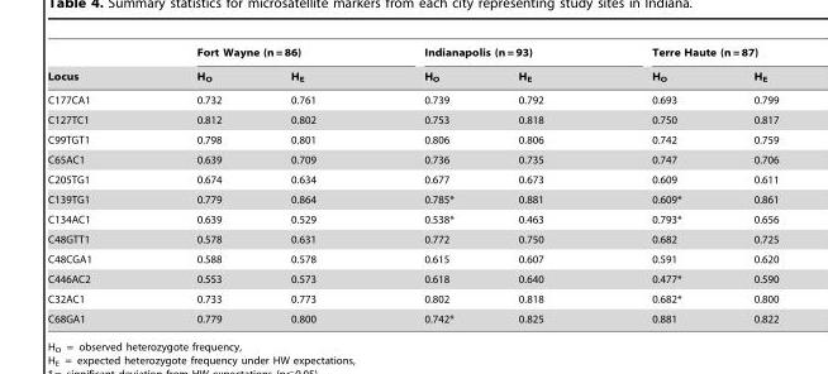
<table><thead><tr><td rowspan="2">Locus</td><td colspan="2">Fort Wayne (n = 86)</td><td colspan="2">Indianapolis (n = 93)</td><td colspan="2">Terre Haute (n = 87)</td></tr><tr><td>H<sub>O</sub></td><td>H<sub>E</sub></td><td>H<sub>O</sub></td><td>H<sub>E</sub></td><td>H<sub>O</sub></td><td>H<sub>E</sub></td></tr></thead><tbody><tr><td>C177CA1</td><td>0.732</td><td>0.761</td><td>0.739</td><td>0.792</td><td>0.693</td><td>0.799</td></tr><tr><td>C127TC1</td><td>0.812</td><td>0.802</td><td>0.753</td><td>0.818</td><td>0.750</td><td>0.817</td></tr><tr><td>C99TGT1</td><td>0.798</td><td>0.801</td><td>0.806</td><td>0.806</td><td>0.742</td><td>0.759</td></tr><tr><td>C65AC1</td><td>0.639</td><td>0.709</td><td>0.736</td><td>0.735</td><td>0.747</td><td>0.706</td></tr><tr><td>C205TG1</td><td>0.674</td><td>0.634</td><td>0.677</td><td>0.673</td><td>0.609</td><td>0.611</td></tr><tr><td>C139TG1</td><td>0.779</td><td>0.864</td><td>0.785*</td><td>0.881</td><td>0.609*</td><td>0.861</td></tr><tr><td>C134AC1</td><td>0.639</td><td>0.529</td><td>0.538*</td><td>0.463</td><td>0.793*</td><td>0.656</td></tr><tr><td>C48GTT1</td><td>0.578</td><td>0.631</td><td>0.772</td><td>0.750</td><td>0.682</td><td>0.725</td></tr><tr><td>C48CGA1</td><td>0.588</td><td>0.578</td><td>0.615</td><td>0.607</td><td>0.591</td><td>0.620</td></tr><tr><td>C446AC2</td><td>0.553</td><td>0.573</td><td>0.618</td><td>0.640</td><td>0.477*</td><td>0.590</td></tr><tr><td>C32AC1</td><td>0.733</td><td>0.773</td><td>0.802</td><td>0.818</td><td>0.682*</td><td>0.800</td></tr><tr><td>C68GA1</td><td>0.779</td><td>0.800</td><td>0.742*</td><td>0.825</td><td>0.881</td><td>0.822</td></tr></tbody></table>